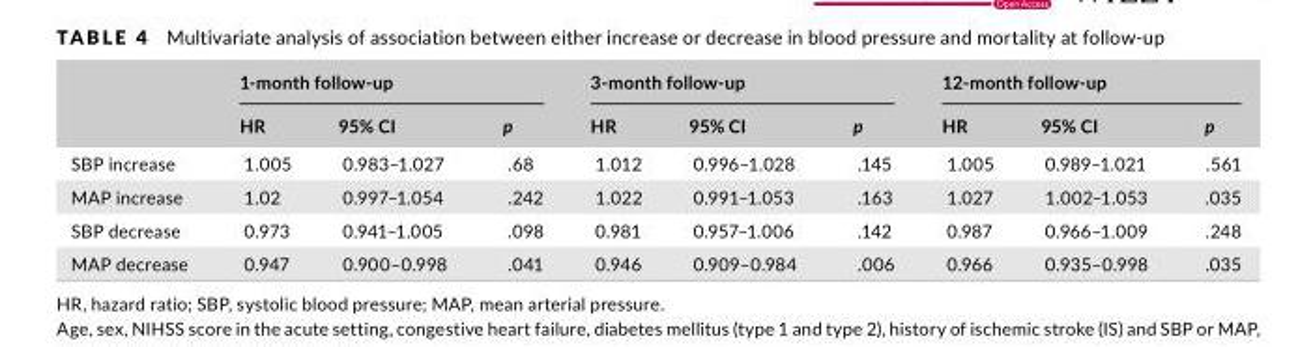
<table><thead><tr><td rowspan="2"></td><td colspan="3">1- month follow- up</td><td colspan="3">3- month follow- up</td><td colspan="3">12- month follow- up</td></tr><tr><td>HR</td><td>95% CI</td><td>p</td><td>HR</td><td>95% CI</td><td>p</td><td>HR</td><td>95% CI</td><td>p</td></tr></thead><tbody><tr><td>SBP increase</td><td>1.005</td><td>0.983–1.027</td><td>.68</td><td>1.012</td><td>0.996–1.028</td><td>.145</td><td>1.005</td><td>0.989–1.021</td><td>.561</td></tr><tr><td>MAP increase</td><td>1.02</td><td>0.997– 1.054</td><td>.242</td><td>1.022</td><td>0.991–1.053</td><td>.163</td><td>1.027</td><td>1.002–1.053</td><td>.035</td></tr><tr><td>SBP decrease</td><td>0.973</td><td>0.941– 1.005</td><td>.098</td><td>0.981</td><td>0.957–1.006</td><td>.142</td><td>0.987</td><td>0.966–1.009</td><td>.248</td></tr><tr><td>MAP decrease</td><td>0.947</td><td>0.900–0.998</td><td>.041</td><td>0.946</td><td>0.909–0.984</td><td>.006</td><td>0.966</td><td>0.935–0.998</td><td>.035</td></tr></tbody></table>